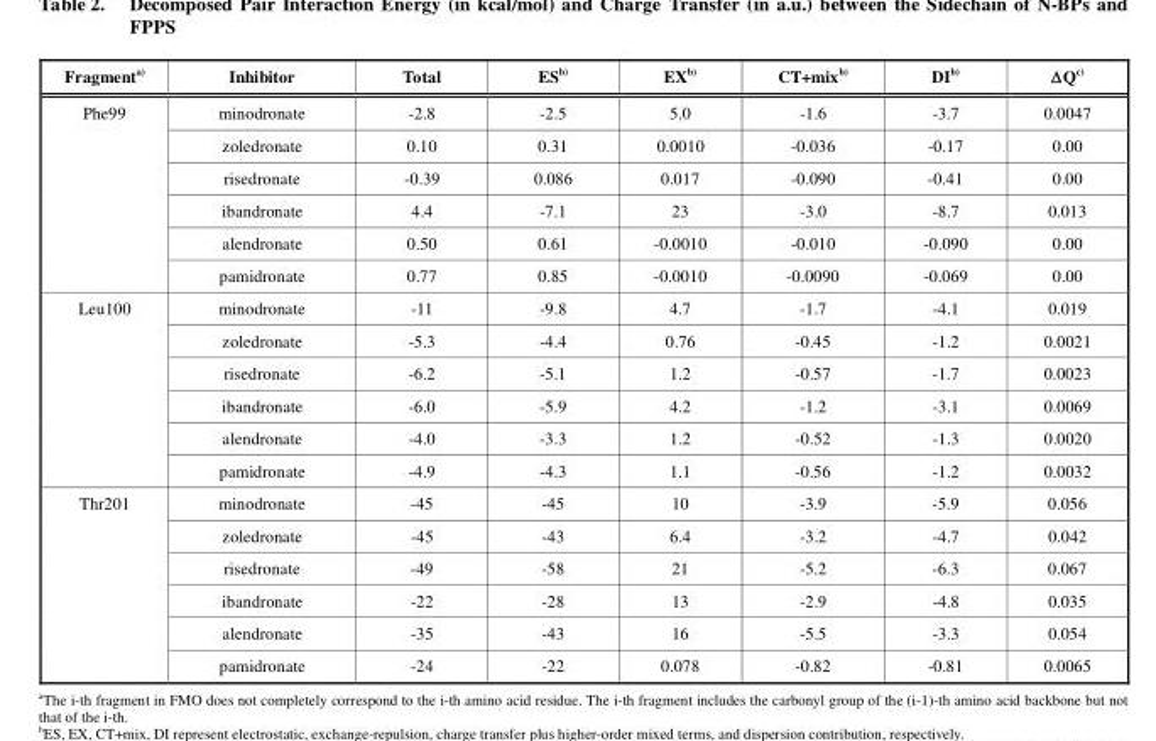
<table><thead><tr><td>Fragmenta)</td><td>Inhibitor</td><td>Total</td><td>ESb)</td><td>EXb)</td><td>CT+mixb)</td><td>DIb)</td><td>DQc)</td></tr></thead><tbody><tr><td rowspan="6">Phe99</td><td>minodronate</td><td>-2.8</td><td>-2.5</td><td>5.0</td><td>-1.6</td><td>-3.7</td><td>0.0047</td></tr><tr><td>zoledronate</td><td>0.10</td><td>0.31</td><td>0.0010</td><td>-0.036</td><td>-0.17</td><td>0.00</td></tr><tr><td>risedronate</td><td>-0.39</td><td>0.086</td><td>0.017</td><td>-0.090</td><td>-0.41</td><td>0.00</td></tr><tr><td>ibandronate</td><td>4.4</td><td>-7.1</td><td>23</td><td>-3.0</td><td>-8.7</td><td>0.013</td></tr><tr><td>alendronate</td><td>0.50</td><td>0.61</td><td>-0.0010</td><td>-0.010</td><td>-0.090</td><td>0.00</td></tr><tr><td>pamidronate</td><td>0.77</td><td>0.85</td><td>-0.0010</td><td>-0.0090</td><td>-0.069</td><td>0.00</td></tr><tr><td rowspan="6">Leu100</td><td>minodronate</td><td>-11</td><td>-9.8</td><td>4.7</td><td>-1.7</td><td>-4.1</td><td>0.019</td></tr><tr><td>zoledronate</td><td>-5.3</td><td>-4.4</td><td>0.76</td><td>-0.45</td><td>-1.2</td><td>0.0021</td></tr><tr><td>risedronate</td><td>-6.2</td><td>-5.1</td><td>1.2</td><td>-0.57</td><td>-1.7</td><td>0.0023</td></tr><tr><td>ibandronate</td><td>-6.0</td><td>-5.9</td><td>4.2</td><td>-1.2</td><td>-3.1</td><td>0.0069</td></tr><tr><td>alendronate</td><td>-4.0</td><td>-3.3</td><td>1.2</td><td>-0.52</td><td>-1.3</td><td>0.0020</td></tr><tr><td>pamidronate</td><td>-4.9</td><td>-4.3</td><td>1.1</td><td>-0.56</td><td>-1.2</td><td>0.0032</td></tr><tr><td rowspan="6">Thr201</td><td>minodronate</td><td>-45</td><td>-45</td><td>10</td><td>-3.9</td><td>-5.9</td><td>0.056</td></tr><tr><td>zoledronate</td><td>-45</td><td>-43</td><td>6.4</td><td>-3.2</td><td>-4.7</td><td>0.042</td></tr><tr><td>risedronate</td><td>-49</td><td>-58</td><td>21</td><td>-5.2</td><td>-6.3</td><td>0.067</td></tr><tr><td>ibandronate</td><td>-22</td><td>-28</td><td>13</td><td>-2.9</td><td>-4.8</td><td>0.035</td></tr><tr><td>alendronate</td><td>-35</td><td>-43</td><td>16</td><td>-5.5</td><td>-3.3</td><td>0.054</td></tr><tr><td>pamidronate</td><td>-24</td><td>-22</td><td>0.078</td><td>-0.82</td><td>-0.81</td><td>0.0065</td></tr></tbody></table>